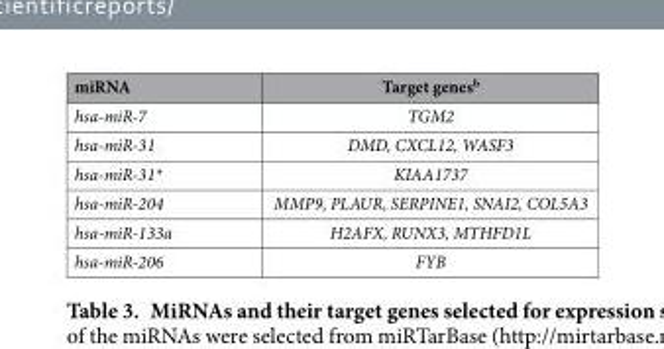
<table><thead><tr><td>miRNA</td><td>Target genes<sup>b</sup></td></tr></thead><tbody><tr><td>hsa-miR-7</td><td>TGM2</td></tr><tr><td>hsa-miR-31</td><td>DMD, CXCL12, WASF3</td></tr><tr><td>hsa-miR-31*</td><td>KIAA1737</td></tr><tr><td>hsa-miR-204</td><td>MMP9, PLAUR, SERPINE1, SNAI2, COL5A3</td></tr><tr><td>hsa-miR-133a</td><td>H2AFX, RUNX3, MTHFD1L</td></tr><tr><td>hsa-miR-206</td><td>FYB</td></tr></tbody></table>